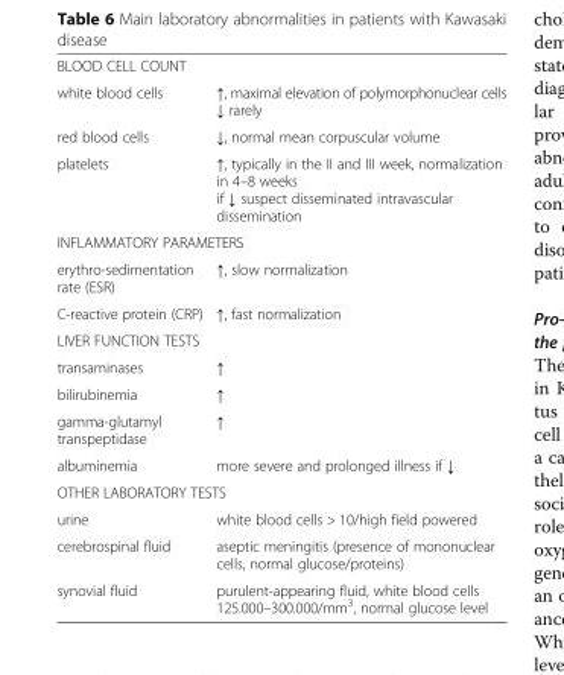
<table><tbody><tr><td colspan="2">BLOOD CELL COUNT</td></tr><tr><td>white blood cells</td><td>↑, maximal elevation of polymorphonuclear cells ↓ rarely</td></tr><tr><td>red blood cells</td><td>↓, normal mean corpuscular volume</td></tr><tr><td>platelets</td><td>↑, typically in the II and III week, normalization in 4–8 weeks if ↓ suspect disseminated intravascular dissemination</td></tr><tr><td colspan="2">INFLAMMATORY PARAMETERS</td></tr><tr><td>erythro-sedimentation rate (ESR)</td><td>↑, slow normalization</td></tr><tr><td>C-reactive protein (CRP)</td><td>↑, fast normalization</td></tr><tr><td colspan="2">LIVER FUNCTION TESTS</td></tr><tr><td>transaminases</td><td>↑</td></tr><tr><td>bilirubinemia</td><td>↑</td></tr><tr><td>gamma-glutamyl transpeptidase</td><td>↑</td></tr><tr><td>albuminemia</td><td>more severe and prolonged illness if ↓</td></tr><tr><td colspan="2">OTHER LABORATORY TESTS</td></tr><tr><td>urine</td><td>white blood cells &gt; 10/high field powered</td></tr><tr><td>cerebrospinal fluid</td><td>aseptic meningitis (presence of mononuclear cells, normal glucose/proteins)</td></tr><tr><td>synovial fluid</td><td>purulent-appearing fluid, white blood cells 125.000–300.000/mm<sup>3</sup>, normal glucose level</td></tr></tbody></table>